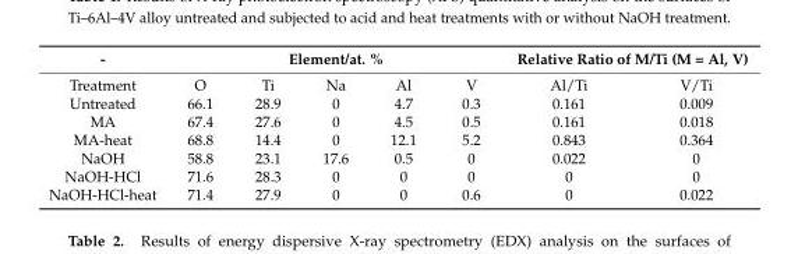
<table><thead><tr><td rowspan="2">- Treatment</td><td colspan="5">Element/at. %</td><td colspan="2">Relative Ratio of M/Ti (M = Al, V)</td></tr><tr><td>O</td><td>Ti</td><td>Na</td><td>Al</td><td>V</td><td>Al/Ti</td><td>V/Ti</td></tr></thead><tbody><tr><td>Untreated</td><td>66.1</td><td>28.9</td><td>0</td><td>4.7</td><td>0.3</td><td>0.161</td><td>0.009</td></tr><tr><td>MA</td><td>67.4</td><td>27.6</td><td>0</td><td>4.5</td><td>0.5</td><td>0.161</td><td>0.018</td></tr><tr><td>MA-heat</td><td>68.8</td><td>14.4</td><td>0</td><td>12.1</td><td>5.2</td><td>0.843</td><td>0.364</td></tr><tr><td>NaOH</td><td>58.8</td><td>23.1</td><td>17.6</td><td>0.5</td><td>0</td><td>0.022</td><td>0</td></tr><tr><td>NaOH-HCl</td><td>71.6</td><td>28.3</td><td>0</td><td>0</td><td>0</td><td>0</td><td>0</td></tr><tr><td>NaOH-HCl-heat</td><td>71.4</td><td>27.9</td><td>0</td><td>0</td><td>0.6</td><td>0</td><td>0.022</td></tr></tbody></table>